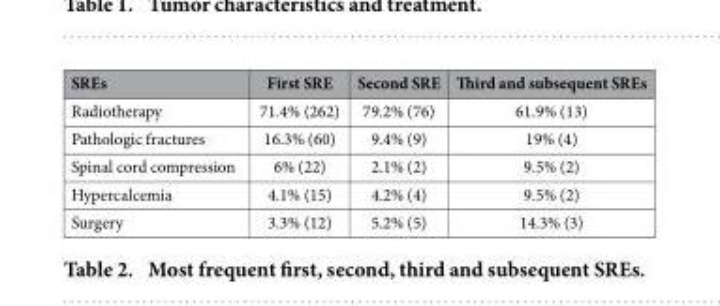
<table><thead><tr><td>SREs</td><td>First SRE</td><td>Second SRE</td><td>Third and subsequent SREs</td></tr></thead><tbody><tr><td>Radiotherapy</td><td>71.4% (262)</td><td>79.2% (76)</td><td>61.9% (13)</td></tr><tr><td>Pathologic fractures</td><td>16.3% (60)</td><td>9.4% (9)</td><td>19% (4)</td></tr><tr><td>Spinal cord compression</td><td>6% (22)</td><td>2.1% (2)</td><td>9.5% (2)</td></tr><tr><td>Hypercalcemia</td><td>4.1% (15)</td><td>4.2% (4)</td><td>9.5% (2)</td></tr><tr><td>Surgery</td><td>3.3% (12)</td><td>5.2% (5)</td><td>14.3% (3)</td></tr></tbody></table>